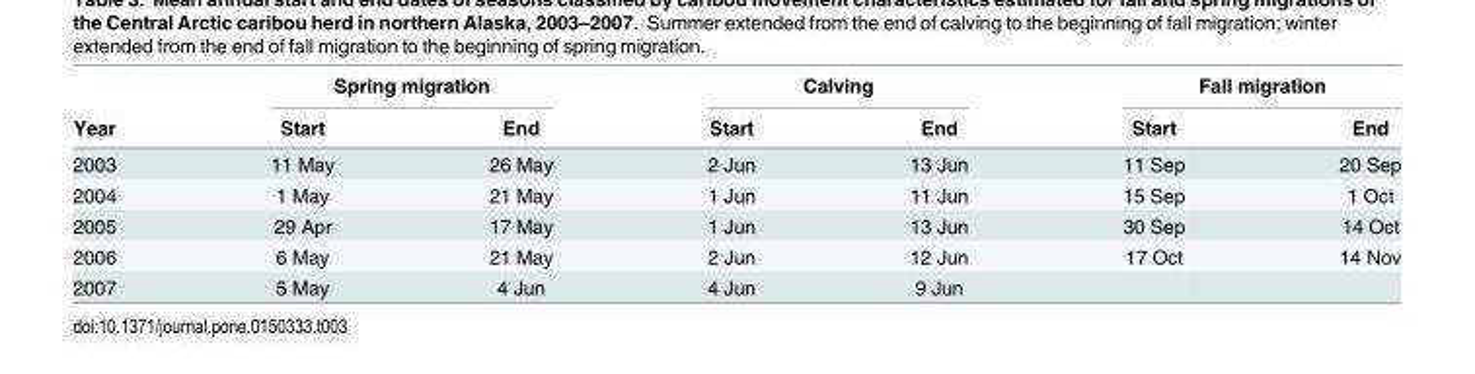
<table><thead><tr><td rowspan="2">Year</td><td colspan="2">Spring migration</td><td colspan="2">Calving</td><td colspan="2">Fall migration</td></tr><tr><td>Start</td><td>End</td><td>Start</td><td>End</td><td>Start</td><td>End</td></tr></thead><tbody><tr><td>2003</td><td>11 May</td><td>26 May</td><td>2 Jun</td><td>13 Jun</td><td>11 Sep</td><td>20 Sep</td></tr><tr><td>2004</td><td>1 May</td><td>21 May</td><td>1 Jun</td><td>11 Jun</td><td>15 Sep</td><td>1 Oct</td></tr><tr><td>2005</td><td>29 Apr</td><td>17 May</td><td>1 Jun</td><td>13 Jun</td><td>30 Sep</td><td>14 Oct</td></tr><tr><td>2006</td><td>6 May</td><td>21 May</td><td>2 Jun</td><td>12 Jun</td><td>17 Oct</td><td>14 Nov</td></tr><tr><td>2007</td><td>5 May</td><td>4 Jun</td><td>4 Jun</td><td>9 Jun</td><td></td><td></td></tr></tbody></table>